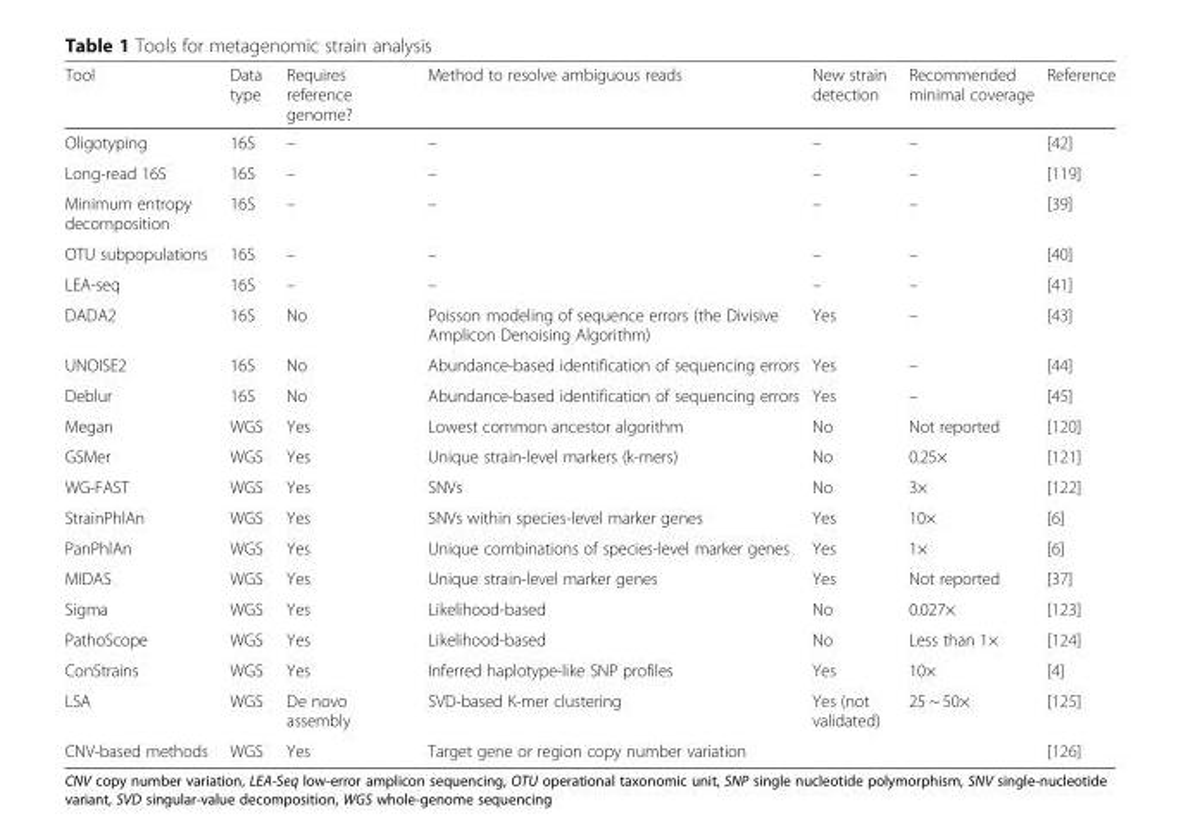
<table><thead><tr><td>Tool</td><td>Data type</td><td>Requires reference genome?</td><td>Method to resolve ambiguous reads</td><td>New strain detection</td><td>Recommended minimal coverage</td><td>Reference</td></tr></thead><tbody><tr><td>Oligotyping</td><td>16S</td><td>–</td><td>–</td><td>–</td><td>–</td><td>[42]</td></tr><tr><td>Long-read 16S</td><td>16S</td><td>–</td><td>–</td><td>–</td><td>–</td><td>[119]</td></tr><tr><td>Minimum entropy decomposition</td><td>16S</td><td>–</td><td>–</td><td>–</td><td>–</td><td>[39]</td></tr><tr><td>OTU subpopulations</td><td>16S</td><td>–</td><td>–</td><td>–</td><td>–</td><td>[40]</td></tr><tr><td>LEA-seq</td><td>16S</td><td>–</td><td>–</td><td>–</td><td>–</td><td>[41]</td></tr><tr><td>DADA2</td><td>16S</td><td>No</td><td>Poisson modeling of sequence errors (the Divisive Amplicon Denoising Algorithm)</td><td>Yes</td><td>–</td><td>[43]</td></tr><tr><td>UNOISE2</td><td>16S</td><td>No</td><td>Abundance-based identification of sequencing errors</td><td>Yes</td><td>–</td><td>[44]</td></tr><tr><td>Deblur</td><td>16S</td><td>No</td><td>Abundance-based identification of sequencing errors</td><td>Yes</td><td>–</td><td>[45]</td></tr><tr><td>Megan</td><td>WGS</td><td>Yes</td><td>Lowest common ancestor algorithm</td><td>No</td><td>Not reported</td><td>[120]</td></tr><tr><td>GSMer</td><td>WGS</td><td>Yes</td><td>Unique strain-level markers (k-mers)</td><td>No</td><td>0.25×</td><td>[121]</td></tr><tr><td>WG-FAST</td><td>WGS</td><td>Yes</td><td>SNVs</td><td>No</td><td>3×</td><td>[122]</td></tr><tr><td>StrainPhlAn</td><td>WGS</td><td>Yes</td><td>SNVs within species-level marker genes</td><td>Yes</td><td>10×</td><td>[6]</td></tr><tr><td>PanPhlAn</td><td>WGS</td><td>Yes</td><td>Unique combinations of species-level marker genes</td><td>Yes</td><td>1×</td><td>[6]</td></tr><tr><td>MIDAS</td><td>WGS</td><td>Yes</td><td>Unique strain-level marker genes</td><td>Yes</td><td>Not reported</td><td>[37]</td></tr><tr><td>Sigma</td><td>WGS</td><td>Yes</td><td>Likelihood-based</td><td>No</td><td>0.027×</td><td>[123]</td></tr><tr><td>PathoScope</td><td>WGS</td><td>Yes</td><td>Likelihood-based</td><td>No</td><td>Less than 1×</td><td>[124]</td></tr><tr><td>ConStrains</td><td>WGS</td><td>Yes</td><td>Inferred haplotype-like SNP profiles</td><td>Yes</td><td>10×</td><td>[4]</td></tr><tr><td>LSA</td><td>WGS</td><td>De novo assembly</td><td>SVD-based K-mer clustering</td><td>Yes (not validated)</td><td>25 ~ 50×</td><td>[125]</td></tr><tr><td>CNV-based methods</td><td>WGS</td><td>Yes</td><td colspan="3">Target gene or region copy number variation</td><td>[126]</td></tr></tbody></table>